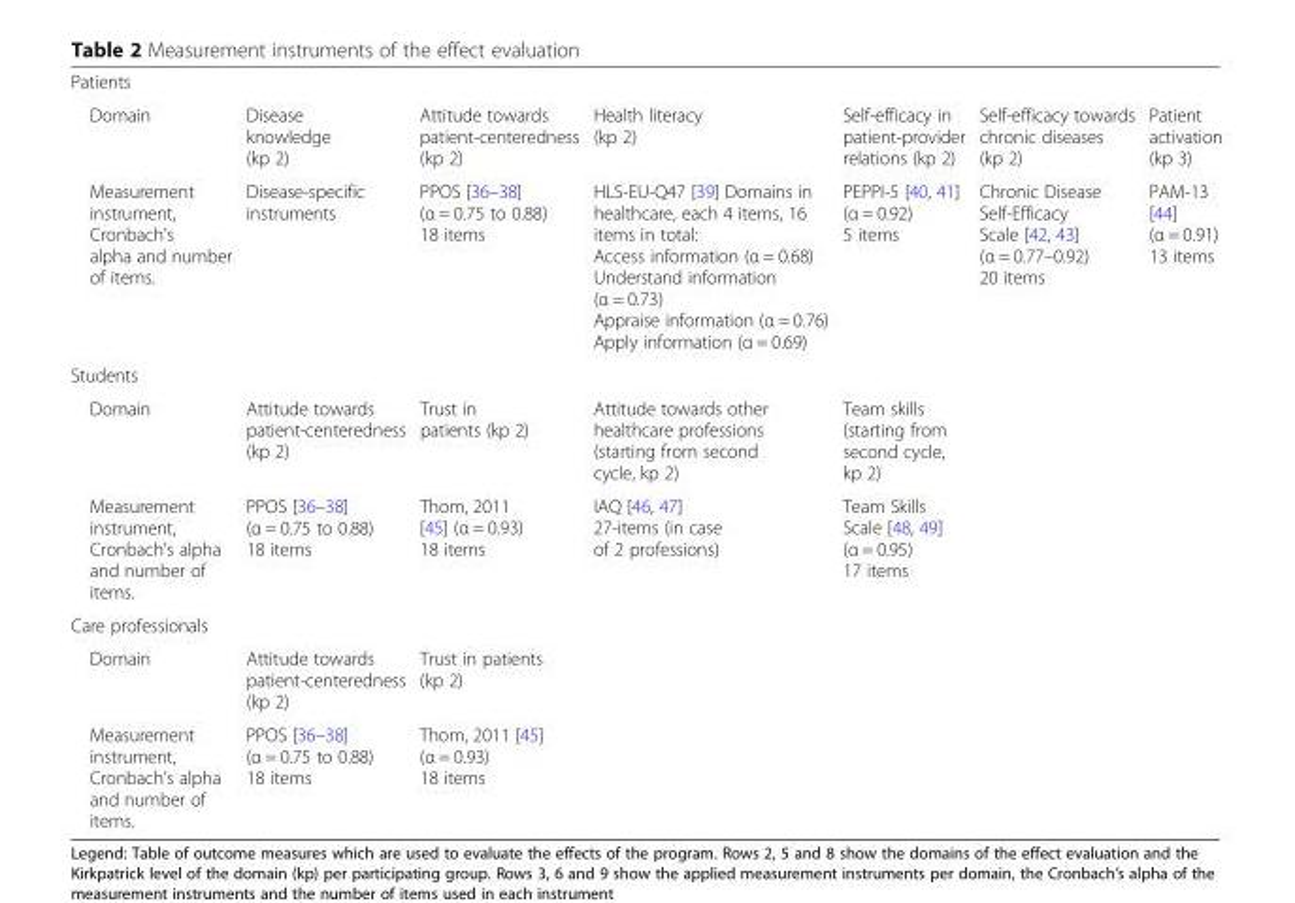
<table><tbody><tr><td colspan="7">Patients</td></tr><tr><td>Domain</td><td>Disease knowledge (kp 2)</td><td>Attitude towards patient-centeredness (kp 2)</td><td>Health literacy (kp 2)</td><td>Self-efficacy in patient-provider relations (kp 2)</td><td>Self-efficacy towards chronic diseases (kp 2)</td><td>Patient activation (kp 3)</td></tr><tr><td>Measurement instrument, Cronbach’s alpha and number of items.</td><td>Disease-specific instruments</td><td>PPOS [36–38] (α = 0.75 to 0.88) 18 items</td><td>HLS-EU-Q47 [39] Domains in healthcare, each 4 items, 16 items in total: Access information (α = 0.68) Understand information (α = 0.73) Appraise information (α = 0.76) Apply information (α = 0.69)</td><td>PEPPI-5 [40, 41] (α = 0.92) 5 items</td><td>Chronic Disease Self-Efficacy Scale [42, 43] (α = 0.77–0.92) 20 items</td><td>PAM-13 [44] (α = 0.91) 13 items</td></tr><tr><td colspan="7">Students</td></tr><tr><td>Domain</td><td>Attitude towards patient-centeredness (kp 2)</td><td>Trust in patients (kp 2)</td><td>Attitude towards other healthcare professions (starting from second cycle, kp 2)</td><td>Team skills (starting from second cycle, kp 2)</td><td></td><td></td></tr><tr><td>Measurement instrument, Cronbach’s alpha and number of items.</td><td>PPOS [36–38] (α = 0.75 to 0.88) 18 items</td><td>Thom, 2011 [45] (α = 0.93) 18 items</td><td>IAQ [46, 47] 27-items (in case of 2 professions)</td><td>Team Skills Scale [48, 49] (α = 0.95) 17 items</td><td></td><td></td></tr><tr><td colspan="7">Care professionals</td></tr><tr><td>Domain</td><td>Attitude towards patient-centeredness (kp 2)</td><td>Trust in patients (kp 2)</td><td></td><td></td><td></td><td></td></tr><tr><td>Measurement instrument, Cronbach’s alpha and number of items.</td><td>PPOS [36–38] (α = 0.75 to 0.88) 18 items</td><td>Thom, 2011 [45] (α = 0.93) 18 items</td><td></td><td></td><td></td><td></td></tr></tbody></table>